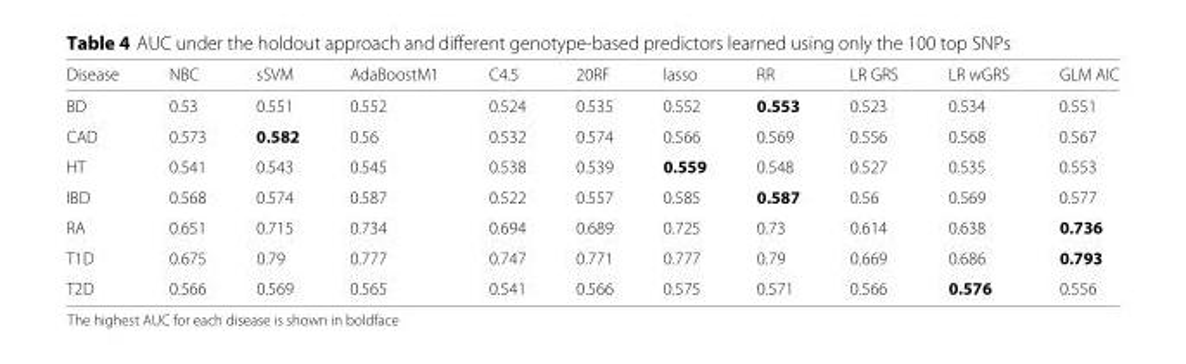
<table><thead><tr><td>Disease</td><td>NBC</td><td>sSVM</td><td>AdaBoostM1</td><td>C4.5</td><td>20RF</td><td>lasso</td><td>RR</td><td>LR GRS</td><td>LR wGRS</td><td>GLM AIC</td></tr></thead><tbody><tr><td>BD</td><td>0.53</td><td>0.551</td><td>0.552</td><td>0.524</td><td>0.535</td><td>0.552</td><td>0.553</td><td>0.523</td><td>0.534</td><td>0.551</td></tr><tr><td>CAD</td><td>0.573</td><td>0.582</td><td>0.56</td><td>0.532</td><td>0.574</td><td>0.566</td><td>0.569</td><td>0.556</td><td>0.568</td><td>0.567</td></tr><tr><td>HT</td><td>0.541</td><td>0.543</td><td>0.545</td><td>0.538</td><td>0.539</td><td>0.559</td><td>0.548</td><td>0.527</td><td>0.535</td><td>0.553</td></tr><tr><td>IBD</td><td>0.568</td><td>0.574</td><td>0.587</td><td>0.522</td><td>0.557</td><td>0.585</td><td>0.587</td><td>0.56</td><td>0.569</td><td>0.577</td></tr><tr><td>RA</td><td>0.651</td><td>0.715</td><td>0.734</td><td>0.694</td><td>0.689</td><td>0.725</td><td>0.73</td><td>0.614</td><td>0.638</td><td>0.736</td></tr><tr><td>T1D</td><td>0.675</td><td>0.79</td><td>0.777</td><td>0.747</td><td>0.771</td><td>0.777</td><td>0.79</td><td>0.669</td><td>0.686</td><td>0.793</td></tr><tr><td>T2D</td><td>0.566</td><td>0.569</td><td>0.565</td><td>0.541</td><td>0.566</td><td>0.575</td><td>0.571</td><td>0.566</td><td>0.576</td><td>0.556</td></tr></tbody></table>